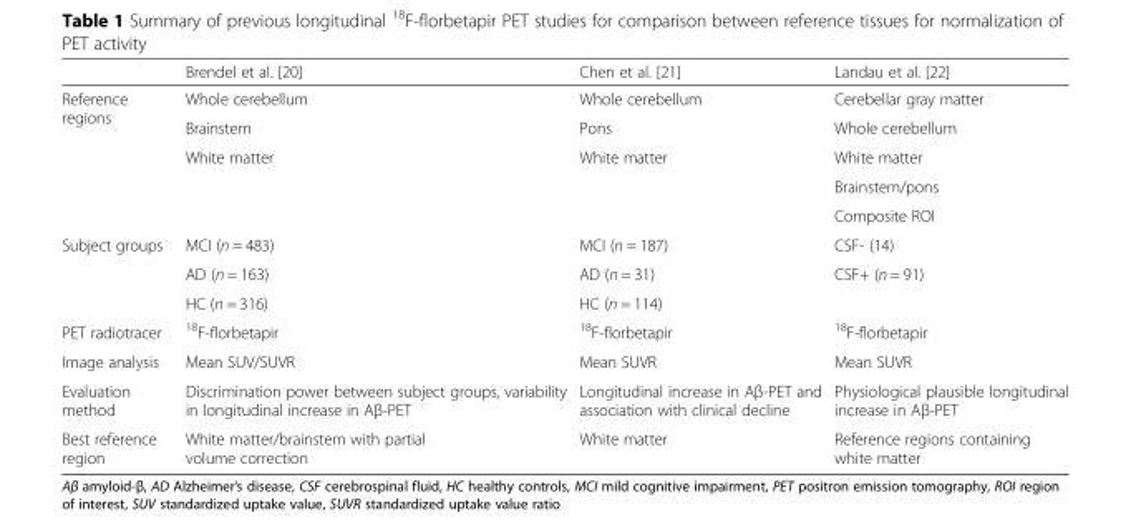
<table><thead><tr><td></td><td>Brendel et al. [20]</td><td>Chen et al. [21]</td><td>Landau et al. [22]</td></tr></thead><tbody><tr><td rowspan="5">Reference regions</td><td>Whole cerebellum</td><td>Whole cerebellum</td><td>Cerebellar gray matter</td></tr><tr><td>Brainstem</td><td>Pons</td><td>Whole cerebellum</td></tr><tr><td rowspan="3">White matter</td><td rowspan="3">White matter</td><td>White matter</td></tr><tr><td>Brainstem/pons</td></tr><tr><td>Composite ROI</td></tr><tr><td rowspan="3">Subject groups</td><td>MCI (n = 483)</td><td>MCI (n = 187)</td><td>CSF- (14)</td></tr><tr><td>AD (n = 163)</td><td>AD (n = 31)</td><td>CSF+ (n = 91)</td></tr><tr><td>HC (n = 316)</td><td>HC (n = 114)</td><td></td></tr><tr><td>PET radiotracer</td><td><sup>18</sup>F-florbetapir</td><td><sup>18</sup>F-florbetapir</td><td><sup>18</sup>F-florbetapir</td></tr><tr><td>Image analysis</td><td>Mean SUV/SUVR</td><td>Mean SUVR</td><td>Mean SUVR</td></tr><tr><td>Evaluation method</td><td>Discrimination power between subject groups, variability in longitudinal increase in Aβ-PET</td><td>Longitudinal increase in Aβ-PET and association with clinical decline</td><td>Physiological plausible longitudinal increase in Aβ-PET</td></tr><tr><td>Best reference region</td><td>White matter/brainstem with partial volume correction</td><td>White matter</td><td>Reference regions containing white matter</td></tr></tbody></table>